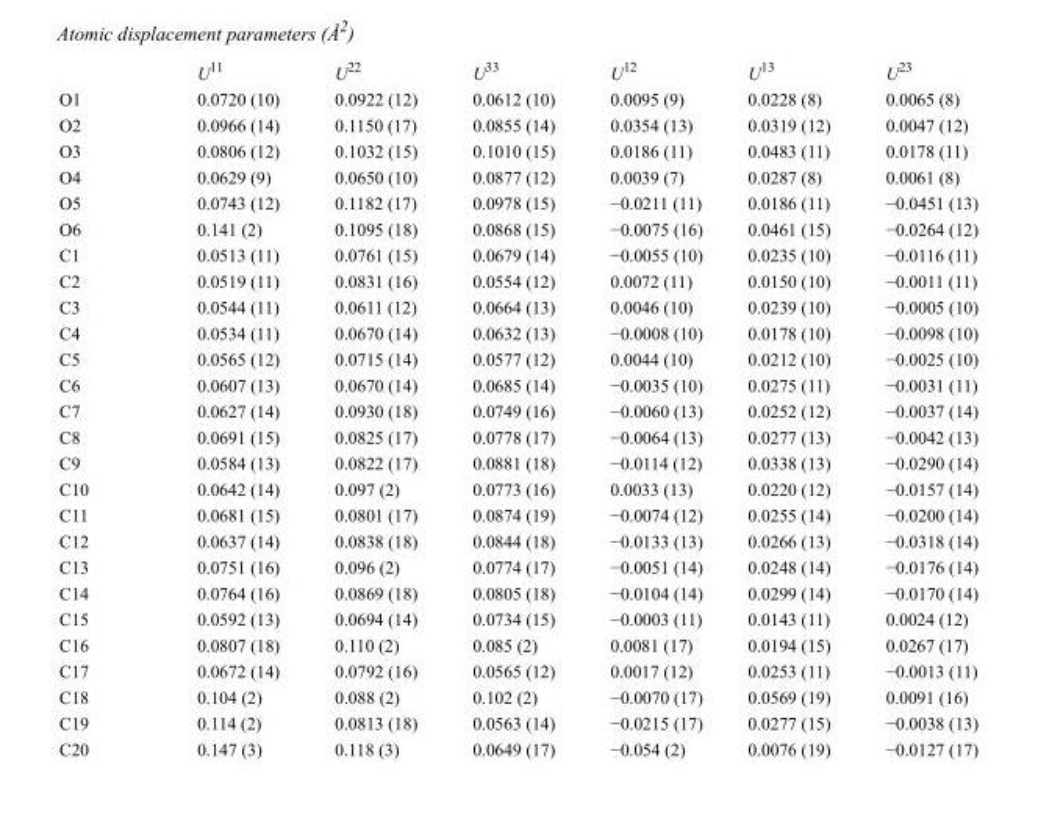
<table><thead><tr><td></td><td>U<sup>11</sup></td><td>U<sup>22</sup></td><td>U<sup>33</sup></td><td>U<sup>12</sup></td><td>U<sup>13</sup></td><td>U<sup>23</sup></td></tr></thead><tbody><tr><td>O1</td><td>0.0720 (10)</td><td>0.0922 (12)</td><td>0.0612 (10)</td><td>0.0095 (9)</td><td>0.0228 (8)</td><td>0.0065 (8)</td></tr><tr><td>O2</td><td>0.0966 (14)</td><td>0.1150 (17)</td><td>0.0855 (14)</td><td>0.0354 (13)</td><td>0.0319 (12)</td><td>0.0047 (12)</td></tr><tr><td>O3</td><td>0.0806 (12)</td><td>0.1032 (15)</td><td>0.1010 (15)</td><td>0.0186 (11)</td><td>0.0483 (11)</td><td>0.0178 (11)</td></tr><tr><td>O4</td><td>0.0629 (9)</td><td>0.0650 (10)</td><td>0.0877 (12)</td><td>0.0039 (7)</td><td>0.0287 (8)</td><td>0.0061 (8)</td></tr><tr><td>O5</td><td>0.0743 (12)</td><td>0.1182 (17)</td><td>0.0978 (15)</td><td>−0.0211 (11)</td><td>0.0186 (11)</td><td>−0.0451 (13)</td></tr><tr><td>O6</td><td>0.141 (2)</td><td>0.1095 (18)</td><td>0.0868 (15)</td><td>−0.0075 (16)</td><td>0.0461 (15)</td><td>−0.0264 (12)</td></tr><tr><td>C1</td><td>0.0513 (11)</td><td>0.0761 (15)</td><td>0.0679 (14)</td><td>−0.0055 (10)</td><td>0.0235 (10)</td><td>−0.0116 (11)</td></tr><tr><td>C2</td><td>0.0519 (11)</td><td>0.0831 (16)</td><td>0.0554 (12)</td><td>0.0072 (11)</td><td>0.0150 (10)</td><td>−0.0011 (11)</td></tr><tr><td>C3</td><td>0.0544 (11)</td><td>0.0611 (12)</td><td>0.0664 (13)</td><td>0.0046 (10)</td><td>0.0239 (10)</td><td>−0.0005 (10)</td></tr><tr><td>C4</td><td>0.0534 (11)</td><td>0.0670 (14)</td><td>0.0632 (13)</td><td>−0.0008 (10)</td><td>0.0178 (10)</td><td>−0.0098 (10)</td></tr><tr><td>C5</td><td>0.0565 (12)</td><td>0.0715 (14)</td><td>0.0577 (12)</td><td>0.0044 (10)</td><td>0.0212 (10)</td><td>−0.0025 (10)</td></tr><tr><td>C6</td><td>0.0607 (13)</td><td>0.0670 (14)</td><td>0.0685 (14)</td><td>−0.0035 (10)</td><td>0.0275 (11)</td><td>−0.0031 (11)</td></tr><tr><td>C7</td><td>0.0627 (14)</td><td>0.0930 (18)</td><td>0.0749 (16)</td><td>−0.0060 (13)</td><td>0.0252 (12)</td><td>−0.0037 (14)</td></tr><tr><td>C8</td><td>0.0691 (15)</td><td>0.0825 (17)</td><td>0.0778 (17)</td><td>−0.0064 (13)</td><td>0.0277 (13)</td><td>−0.0042 (13)</td></tr><tr><td>C9</td><td>0.0584 (13)</td><td>0.0822 (17)</td><td>0.0881 (18)</td><td>−0.0114 (12)</td><td>0.0338 (13)</td><td>−0.0290 (14)</td></tr><tr><td>C10</td><td>0.0642 (14)</td><td>0.097 (2)</td><td>0.0773 (16)</td><td>0.0033 (13)</td><td>0.0220 (12)</td><td>−0.0157 (14)</td></tr><tr><td>C11</td><td>0.0681 (15)</td><td>0.0801 (17)</td><td>0.0874 (19)</td><td>−0.0074 (12)</td><td>0.0255 (14)</td><td>−0.0200 (14)</td></tr><tr><td>C12</td><td>0.0637 (14)</td><td>0.0838 (18)</td><td>0.0844 (18)</td><td>−0.0133 (13)</td><td>0.0266 (13)</td><td>−0.0318 (14)</td></tr><tr><td>C13</td><td>0.0751 (16)</td><td>0.096 (2)</td><td>0.0774 (17)</td><td>−0.0051 (14)</td><td>0.0248 (14)</td><td>−0.0176 (14)</td></tr><tr><td>C14</td><td>0.0764 (16)</td><td>0.0869 (18)</td><td>0.0805 (18)</td><td>−0.0104 (14)</td><td>0.0299 (14)</td><td>−0.0170 (14)</td></tr><tr><td>C15</td><td>0.0592 (13)</td><td>0.0694 (14)</td><td>0.0734 (15)</td><td>−0.0003 (11)</td><td>0.0143 (11)</td><td>0.0024 (12)</td></tr><tr><td>C16</td><td>0.0807 (18)</td><td>0.110 (2)</td><td>0.085 (2)</td><td>0.0081 (17)</td><td>0.0194 (15)</td><td>0.0267 (17)</td></tr><tr><td>C17</td><td>0.0672 (14)</td><td>0.0792 (16)</td><td>0.0565 (12)</td><td>0.0017 (12)</td><td>0.0253 (11)</td><td>−0.0013 (11)</td></tr><tr><td>C18</td><td>0.104 (2)</td><td>0.088 (2)</td><td>0.102 (2)</td><td>−0.0070 (17)</td><td>0.0569 (19)</td><td>0.0091 (16)</td></tr><tr><td>C19</td><td>0.114 (2)</td><td>0.0813 (18)</td><td>0.0563 (14)</td><td>−0.0215 (17)</td><td>0.0277 (15)</td><td>−0.0038 (13)</td></tr><tr><td>C20</td><td>0.147 (3)</td><td>0.118 (3)</td><td>0.0649 (17)</td><td>−0.054 (2)</td><td>0.0076 (19)</td><td>−0.0127 (17)</td></tr></tbody></table>